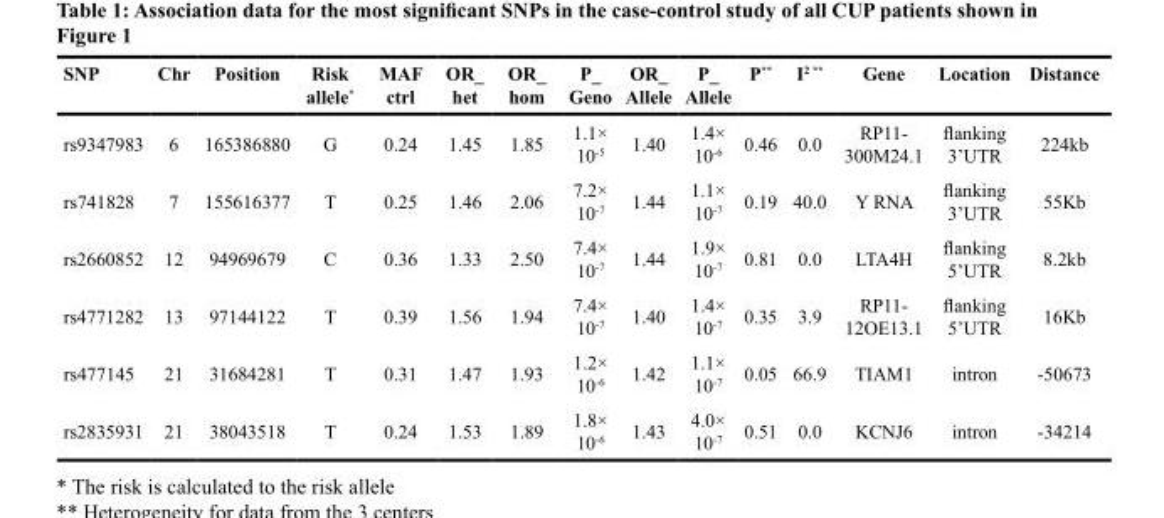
<table><thead><tr><td>SNP</td><td>Chr</td><td>Position</td><td>Risk allele*</td><td>MAF ctrl</td><td>OR_ het</td><td>OR_ hom</td><td>P_ Geno</td><td>OR_ Allele</td><td>P_ Allele</td><td>P**</td><td>I<sup>2</sup> **</td><td>Gene</td><td>Location</td><td>Distance</td></tr></thead><tbody><tr><td>rs9347983</td><td>6</td><td>165386880</td><td>G</td><td>0.24</td><td>1.45</td><td>1.85</td><td>1.1× 10<sup>-5</sup></td><td>1.40</td><td>1.4× 10<sup>-6</sup></td><td>0.46</td><td>0.0</td><td>RP11- 300M24.1</td><td>flanking 3’UTR</td><td>224kb</td></tr><tr><td>rs741828</td><td>7</td><td>155616377</td><td>T</td><td>0.25</td><td>1.46</td><td>2.06</td><td>7.2× 10<sup>-7</sup></td><td>1.44</td><td>1.1× 10<sup>-7</sup></td><td>0.19</td><td>40.0</td><td>Y RNA</td><td>flanking 3’UTR</td><td>55Kb</td></tr><tr><td>rs2660852</td><td>12</td><td>94969679</td><td>C</td><td>0.36</td><td>1.33</td><td>2.50</td><td>7.4× 10<sup>-7</sup></td><td>1.44</td><td>1.9× 10<sup>-7</sup></td><td>0.81</td><td>0.0</td><td>LTA4H</td><td>flanking 5’UTR</td><td>8.2kb</td></tr><tr><td>rs4771282</td><td>13</td><td>97144122</td><td>T</td><td>0.39</td><td>1.56</td><td>1.94</td><td>7.4× 10<sup>-7</sup></td><td>1.40</td><td>1.4× 10<sup>-7</sup></td><td>0.35</td><td>3.9</td><td>RP11- 12OE13.1</td><td>flanking 5’UTR</td><td>16Kb</td></tr><tr><td>rs477145</td><td>21</td><td>31684281</td><td>T</td><td>0.31</td><td>1.47</td><td>1.93</td><td>1.2× 10<sup>-6</sup></td><td>1.42</td><td>1.1× 10<sup>-7</sup></td><td>0.05</td><td>66.9</td><td>TIAM1</td><td>intron</td><td>-50673</td></tr><tr><td>rs2835931</td><td>21</td><td>38043518</td><td>T</td><td>0.24</td><td>1.53</td><td>1.89</td><td>1.8× 10<sup>-6</sup></td><td>1.43</td><td>4.0× 10<sup>-7</sup></td><td>0.51</td><td>0.0</td><td>KCNJ6</td><td>intron</td><td>-34214</td></tr></tbody></table>